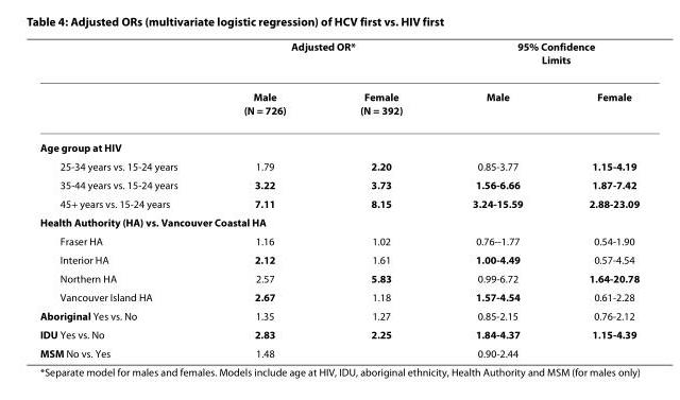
<table><thead><tr><td rowspan="2"></td><td colspan="2">Adjusted OR*</td><td colspan="2">95% Confidence Limits</td></tr><tr><td>Male (N = 726)</td><td>Female (N = 392)</td><td>Male</td><td>Female</td></tr></thead><tbody><tr><td colspan="5">Age group at HIV</td></tr><tr><td>25-34 years vs. 15-24 years</td><td>1.79</td><td>2.20</td><td>0.85-3.77</td><td>1.15-4.19</td></tr><tr><td>35-44 years vs. 15-24 years</td><td>3.22</td><td>3.73</td><td>1.56-6.66</td><td>1.87-7.42</td></tr><tr><td>45+ years vs. 15-24 years</td><td>7.11</td><td>8.15</td><td>3.24-15.59</td><td>2.88-23.09</td></tr><tr><td colspan="5">Health Authority (HA) vs. Vancouver Coastal HA</td></tr><tr><td>Fraser HA</td><td>1.16</td><td>1.02</td><td>0.76--1.77</td><td>0.54-1.90</td></tr><tr><td>Interior HA</td><td>2.12</td><td>1.61</td><td>1.00-4.49</td><td>0.57-4.54</td></tr><tr><td>Northern HA</td><td>2.57</td><td>5.83</td><td>0.99-6.72</td><td>1.64-20.78</td></tr><tr><td>Vancouver Island HA</td><td>2.67</td><td>1.18</td><td>1.57-4.54</td><td>0.61-2.28</td></tr><tr><td>Aboriginal Yes vs. No</td><td>1.35</td><td>1.27</td><td>0.85-2.15</td><td>0.76-2.12</td></tr><tr><td>IDU Yes vs. No</td><td>2.83</td><td>2.25</td><td>1.84-4.37</td><td>1.15-4.39</td></tr><tr><td>MSM No vs. Yes</td><td>1.48</td><td></td><td>0.90-2.44</td><td></td></tr></tbody></table>